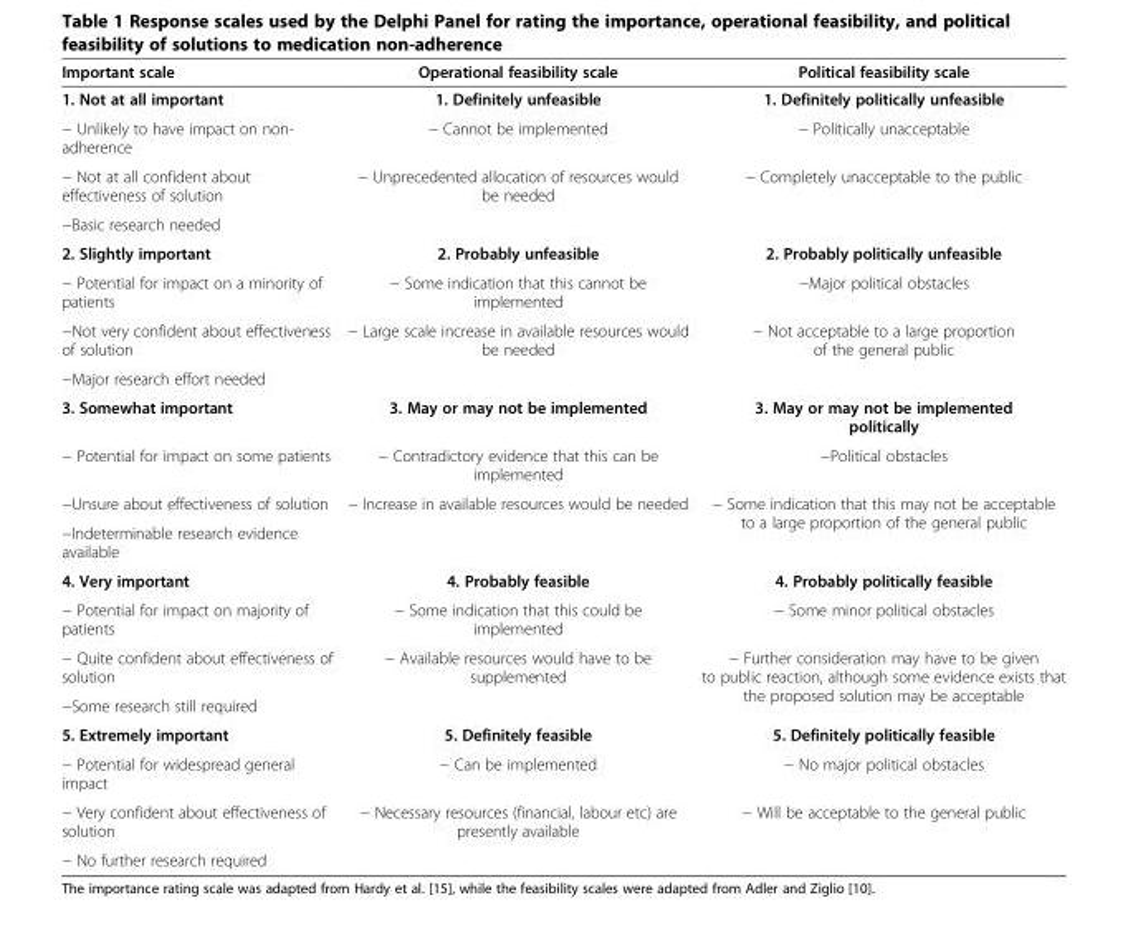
<table><thead><tr><td>Important scale</td><td>Operational feasibility scale</td><td>Political feasibility scale</td></tr></thead><tbody><tr><td>1. Not at all important</td><td>1. Definitely unfeasible</td><td>1. Definitely politically unfeasible</td></tr><tr><td>− Unlikely to have impact on non- adherence</td><td>− Cannot be implemented</td><td>− Politically unacceptable</td></tr><tr><td>− Not at all confident about effectiveness of solution</td><td rowspan="2">− Unprecedented allocation of resources would be needed</td><td rowspan="2">− Completely unacceptable to the public</td></tr><tr><td>−Basic research needed</td></tr><tr><td>2. Slightly important</td><td>2. Probably unfeasible</td><td>2. Probably politically unfeasible</td></tr><tr><td>− Potential for impact on a minority of patients</td><td>− Some indication that this cannot be implemented</td><td>−Major political obstacles</td></tr><tr><td>−Not very confident about effectiveness of solution</td><td rowspan="2">− Large scale increase in available resources would be needed</td><td rowspan="2">− Not acceptable to a large proportion of the general public</td></tr><tr><td>−Major research effort needed</td></tr><tr><td>3. Somewhat important</td><td>3. May or may not be implemented</td><td>3. May or may not be implemented politically</td></tr><tr><td>− Potential for impact on some patients</td><td>− Contradictory evidence that this can be implemented</td><td>−Political obstacles</td></tr><tr><td>−Unsure about effectiveness of solution</td><td rowspan="2">− Increase in available resources would be needed</td><td rowspan="2">− Some indication that this may not be acceptable to a large proportion of the general public</td></tr><tr><td>−Indeterminable research evidence available</td></tr><tr><td>4. Very important</td><td>4. Probably feasible</td><td>4. Probably politically feasible</td></tr><tr><td>− Potential for impact on majority of patients</td><td>− Some indication that this could be implemented</td><td>− Some minor political obstacles</td></tr><tr><td>− Quite confident about effectiveness of solution</td><td rowspan="2">− Available resources would have to be supplemented</td><td rowspan="2">− Further consideration may have to be given to public reaction, although some evidence exists that the proposed solution may be acceptable</td></tr><tr><td>−Some research still required</td></tr><tr><td>5. Extremely important</td><td>5. Definitely feasible</td><td>5. Definitely politically feasible</td></tr><tr><td>− Potential for widespread general impact</td><td>− Can be implemented</td><td>− No major political obstacles</td></tr><tr><td>− Very confident about effectiveness of solution</td><td rowspan="2">− Necessary resources (financial, labour etc) are presently available</td><td rowspan="2">− Will be acceptable to the general public</td></tr><tr><td>− No further research required</td></tr></tbody></table>